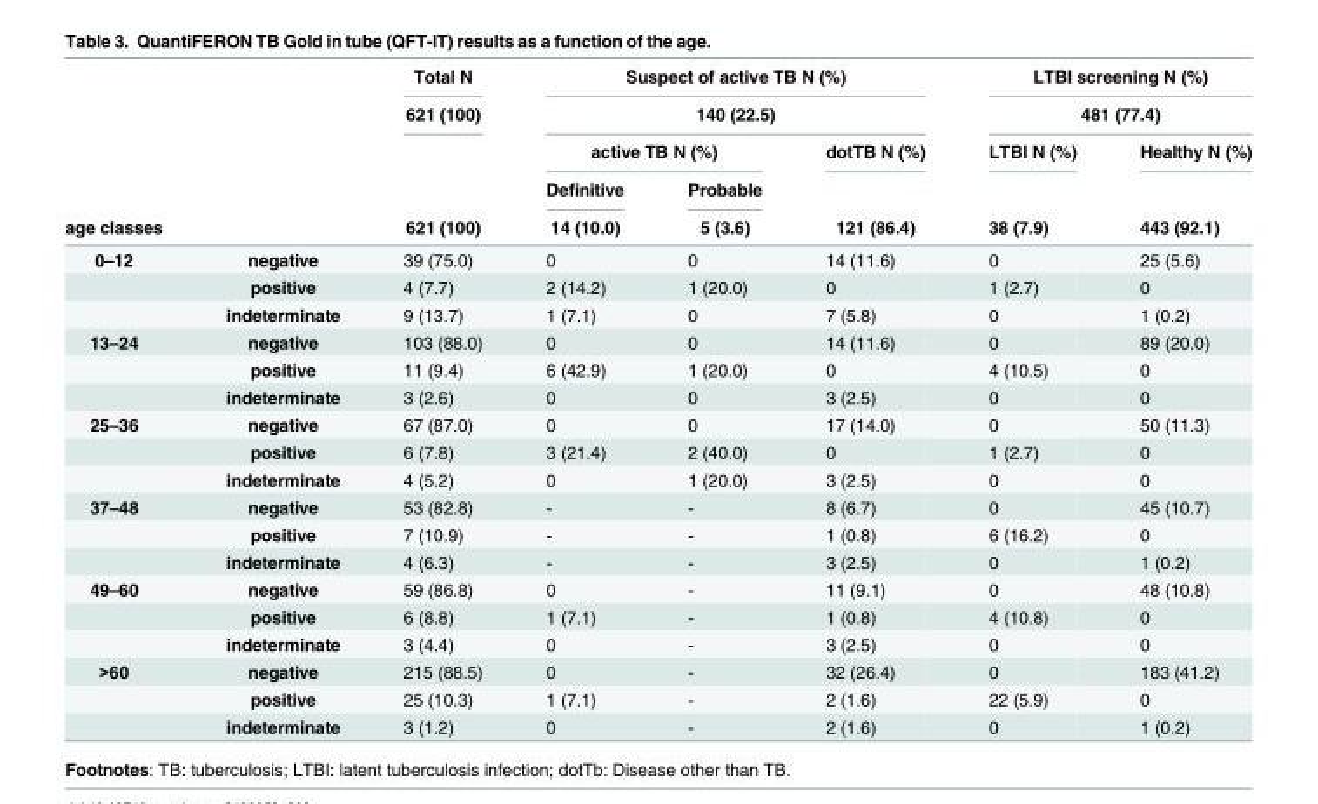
<table><thead><tr><td rowspan="5">age classes</td><td rowspan="5"></td><td rowspan="5">Total N 621 (100) 621 (100)</td><td rowspan="2" colspan="3">Suspect of active TB N (%) 140 (22.5)</td><td rowspan="2" colspan="2">LTBI screening N (%) 481 (77.4)</td></tr><tr></tr><tr><td colspan="2">active TB N (%)</td><td rowspan="3">dotTB N (%) 121 (86.4)</td><td rowspan="3">LTBI N (%) 38 (7.9)</td><td rowspan="3">Healthy N (%) 443 (92.1)</td></tr><tr><td rowspan="2">Definitive 14 (10.0)</td><td rowspan="2">Probable 5 (3.6)</td></tr><tr></tr></thead><tbody><tr><td rowspan="3">0–12</td><td>negative</td><td>39 (75.0)</td><td>0</td><td>0</td><td>14 (11.6)</td><td>0</td><td>25 (5.6)</td></tr><tr><td>positive</td><td>4 (7.7)</td><td>2 (14.2)</td><td>1 (20.0)</td><td>0</td><td>1 (2.7)</td><td>0</td></tr><tr><td>indeterminate</td><td>9 (13.7)</td><td>1 (7.1)</td><td>0</td><td>7 (5.8)</td><td>0</td><td>1 (0.2)</td></tr><tr><td rowspan="3">13–24</td><td>negative</td><td>103 (88.0)</td><td>0</td><td>0</td><td>14 (11.6)</td><td>0</td><td>89 (20.0)</td></tr><tr><td>positive</td><td>11 (9.4)</td><td>6 (42.9)</td><td>1 (20.0)</td><td>0</td><td>4 (10.5)</td><td>0</td></tr><tr><td>indeterminate</td><td>3 (2.6)</td><td>0</td><td>0</td><td>3 (2.5)</td><td>0</td><td>0</td></tr><tr><td rowspan="3">25–36</td><td>negative</td><td>67 (87.0)</td><td>0</td><td>0</td><td>17 (14.0)</td><td>0</td><td>50 (11.3)</td></tr><tr><td>positive</td><td>6 (7.8)</td><td>3 (21.4)</td><td>2 (40.0)</td><td>0</td><td>1 (2.7)</td><td>0</td></tr><tr><td>indeterminate</td><td>4 (5.2)</td><td>0</td><td>1 (20.0)</td><td>3 (2.5)</td><td>0</td><td>0</td></tr><tr><td rowspan="3">37–48</td><td>negative</td><td>53 (82.8)</td><td>-</td><td>-</td><td>8 (6.7)</td><td>0</td><td>45 (10.7)</td></tr><tr><td>positive</td><td>7 (10.9)</td><td>-</td><td>-</td><td>1 (0.8)</td><td>6 (16.2)</td><td>0</td></tr><tr><td>indeterminate</td><td>4 (6.3)</td><td>-</td><td>-</td><td>3 (2.5)</td><td>0</td><td>1 (0.2)</td></tr><tr><td rowspan="3">49–60</td><td>negative</td><td>59 (86.8)</td><td>0</td><td>-</td><td>11 (9.1)</td><td>0</td><td>48 (10.8)</td></tr><tr><td>positive</td><td>6 (8.8)</td><td>1 (7.1)</td><td>-</td><td>1 (0.8)</td><td>4 (10.8)</td><td>0</td></tr><tr><td>indeterminate</td><td>3 (4.4)</td><td>0</td><td>-</td><td>3 (2.5)</td><td>0</td><td>0</td></tr><tr><td rowspan="3">&gt;60</td><td>negative</td><td>215 (88.5)</td><td>0</td><td>-</td><td>32 (26.4)</td><td>0</td><td>183 (41.2)</td></tr><tr><td>positive</td><td>25 (10.3)</td><td>1 (7.1)</td><td>-</td><td>2 (1.6)</td><td>22 (5.9)</td><td>0</td></tr><tr><td>indeterminate</td><td>3 (1.2)</td><td>0</td><td>-</td><td>2 (1.6)</td><td>0</td><td>1 (0.2)</td></tr></tbody></table>